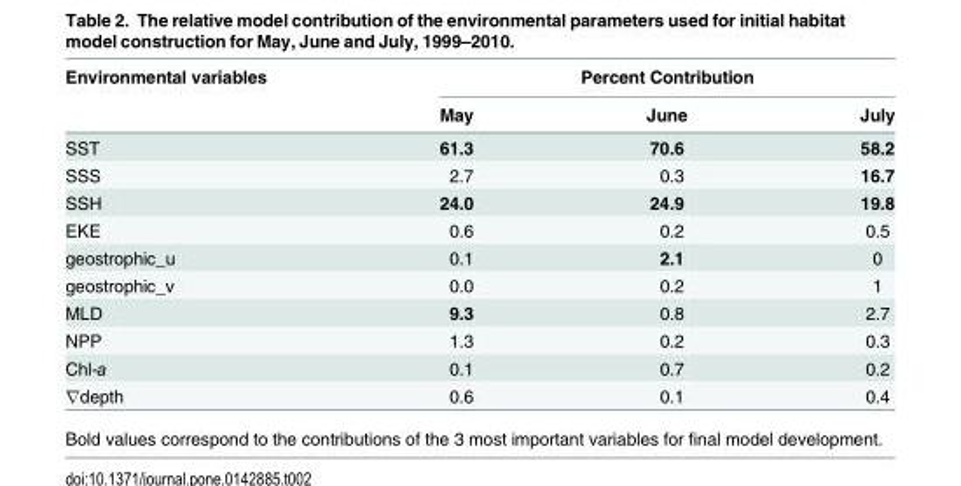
<table><thead><tr><td rowspan="2">Environmental variables</td><td colspan="3">Percent Contribution</td></tr><tr><td>May</td><td>June</td><td>July</td></tr></thead><tbody><tr><td>SST</td><td>61.3</td><td>70.6</td><td>58.2</td></tr><tr><td>SSS</td><td>2.7</td><td>0.3</td><td>16.7</td></tr><tr><td>SSH</td><td>24.0</td><td>24.9</td><td>19.8</td></tr><tr><td>EKE</td><td>0.6</td><td>0.2</td><td>0.5</td></tr><tr><td>geostrophic_u</td><td>0.1</td><td>2.1</td><td>0</td></tr><tr><td>geostrophic_v</td><td>0.0</td><td>0.2</td><td>1</td></tr><tr><td>MLD</td><td>9.3</td><td>0.8</td><td>2.7</td></tr><tr><td>NPP</td><td>1.3</td><td>0.2</td><td>0.3</td></tr><tr><td>Chl-a</td><td>0.1</td><td>0.7</td><td>0.2</td></tr><tr><td>∇depth</td><td>0.6</td><td>0.1</td><td>0.4</td></tr></tbody></table>